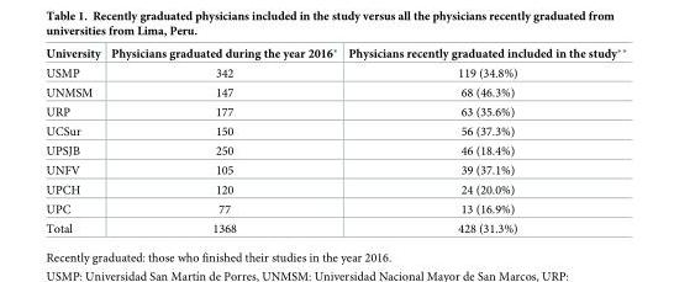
<table><thead><tr><td>University</td><td>Physicians graduated during the year 2016*</td><td>Physicians recently graduated included in the study**</td></tr></thead><tbody><tr><td>USMP</td><td>342</td><td>119 (34.8%)</td></tr><tr><td>UNMSM</td><td>147</td><td>68 (46.3%)</td></tr><tr><td>URP</td><td>177</td><td>63 (35.6%)</td></tr><tr><td>UCSur</td><td>150</td><td>56 (37.3%)</td></tr><tr><td>UPSJB</td><td>250</td><td>46 (18.4%)</td></tr><tr><td>UNFV</td><td>105</td><td>39 (37.1%)</td></tr><tr><td>UPCH</td><td>120</td><td>24 (20.0%)</td></tr><tr><td>UPC</td><td>77</td><td>13 (16.9%)</td></tr><tr><td>Total</td><td>1368</td><td>428 (31.3%)</td></tr></tbody></table>